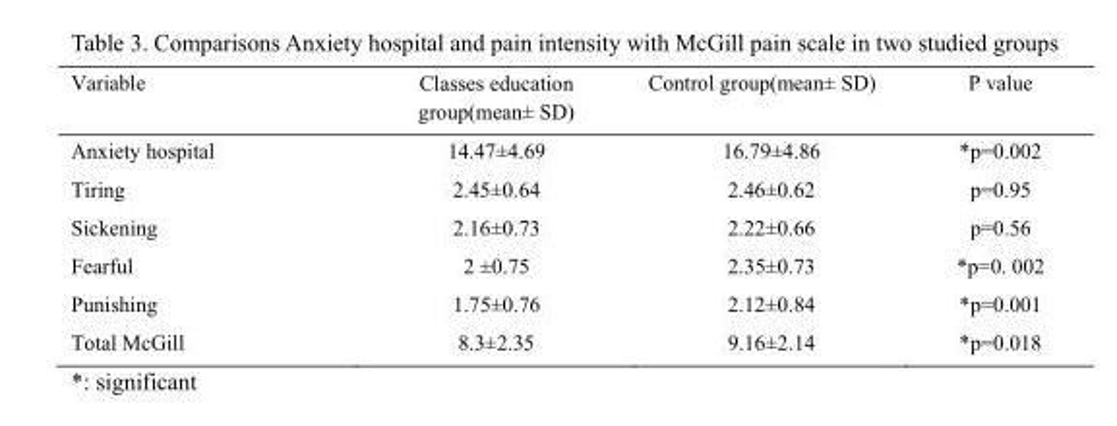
<table><thead><tr><td>Variable</td><td>Classes education group(mean± SD)</td><td>Control group(mean± SD)</td><td>P value</td></tr></thead><tbody><tr><td>Anxiety hospital</td><td>14.47±4.69</td><td>16.79±4.86</td><td>*p=0.002</td></tr><tr><td>Tiring</td><td>2.45±0.64</td><td>2.46±0.62</td><td>p=0.95</td></tr><tr><td>Sickening</td><td>2.16±0.73</td><td>2.22±0.66</td><td>p=0.56</td></tr><tr><td>Fearful</td><td>2 ±0.75</td><td>2.35±0.73</td><td>*p=0. 002</td></tr><tr><td>Punishing</td><td>1.75±0.76</td><td>2.12±0.84</td><td>*p=0.001</td></tr><tr><td>Total McGill</td><td>8.3±2.35</td><td>9.16±2.14</td><td>*p=0.018</td></tr></tbody></table>